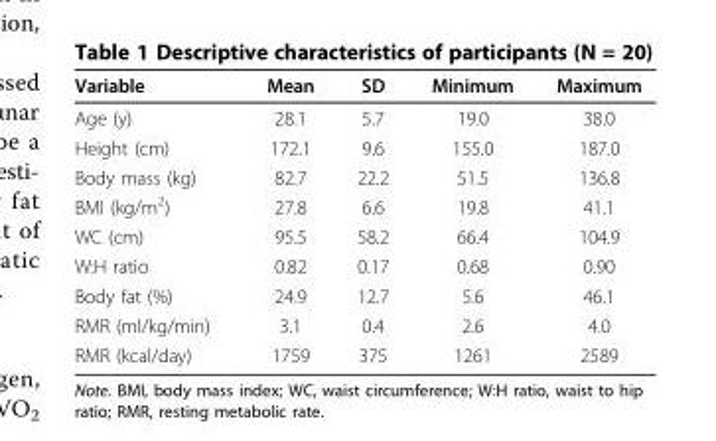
<table><thead><tr><td>Variable</td><td>Mean</td><td>SD</td><td>Minimum</td><td>Maximum</td></tr></thead><tbody><tr><td>Age (y)</td><td>28.1</td><td>5.7</td><td>19.0</td><td>38.0</td></tr><tr><td>Height (cm)</td><td>172.1</td><td>9.6</td><td>155.0</td><td>187.0</td></tr><tr><td>Body mass (kg)</td><td>82.7</td><td>22.2</td><td>51.5</td><td>136.8</td></tr><tr><td>BMI (kg/m<sup>2</sup>)</td><td>27.8</td><td>6.6</td><td>19.8</td><td>41.1</td></tr><tr><td>WC (cm)</td><td>95.5</td><td>58.2</td><td>66.4</td><td>104.9</td></tr><tr><td>W:H ratio</td><td>0.82</td><td>0.17</td><td>0.68</td><td>0.90</td></tr><tr><td>Body fat (%)</td><td>24.9</td><td>12.7</td><td>5.6</td><td>46.1</td></tr><tr><td>RMR (ml/kg/min)</td><td>3.1</td><td>0.4</td><td>2.6</td><td>4.0</td></tr><tr><td>RMR (kcal/day)</td><td>1759</td><td>375</td><td>1261</td><td>2589</td></tr></tbody></table>